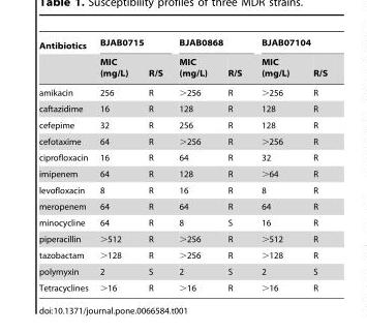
<table><thead><tr><td rowspan="2">Antibiotics</td><td colspan="2">BJAB0715</td><td colspan="2">BJAB0868</td><td colspan="2">BJAB07104</td></tr><tr><td>MIC (mg/L)</td><td>R/S</td><td>MIC (mg/L)</td><td>R/S</td><td>MIC (mg/L)</td><td>R/S</td></tr></thead><tbody><tr><td>amikacin</td><td>256</td><td>R</td><td>&gt;256</td><td>R</td><td>&gt;256</td><td>R</td></tr><tr><td>caftazidime</td><td>16</td><td>R</td><td>128</td><td>R</td><td>128</td><td>R</td></tr><tr><td>cefepime</td><td>32</td><td>R</td><td>256</td><td>R</td><td>128</td><td>R</td></tr><tr><td>cefotaxime</td><td>64</td><td>R</td><td>&gt;256</td><td>R</td><td>&gt;256</td><td>R</td></tr><tr><td>ciprofloxacin</td><td>16</td><td>R</td><td>64</td><td>R</td><td>32</td><td>R</td></tr><tr><td>imipenem</td><td>64</td><td>R</td><td>128</td><td>R</td><td>&gt;64</td><td>R</td></tr><tr><td>levofloxacin</td><td>8</td><td>R</td><td>16</td><td>R</td><td>8</td><td>R</td></tr><tr><td>meropenem</td><td>64</td><td>R</td><td>64</td><td>R</td><td>64</td><td>R</td></tr><tr><td>minocycline</td><td>64</td><td>R</td><td>8</td><td>S</td><td>16</td><td>R</td></tr><tr><td>piperacillin</td><td>&gt;512</td><td>R</td><td>&gt;256</td><td>R</td><td>&gt;512</td><td>R</td></tr><tr><td>tazobactam</td><td>&gt;128</td><td>R</td><td>&gt;256</td><td>R</td><td>&gt;128</td><td>R</td></tr><tr><td>polymyxin</td><td>2</td><td>S</td><td>2</td><td>S</td><td>2</td><td>S</td></tr><tr><td>Tetracyclines</td><td>&gt;16</td><td>R</td><td>&gt;16</td><td>R</td><td>&gt;16</td><td>R</td></tr></tbody></table>